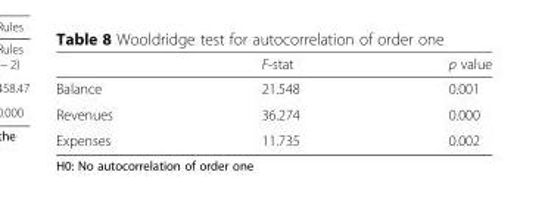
<table><thead><tr><td></td><td>F-stat</td><td>p value</td></tr></thead><tbody><tr><td>Balance</td><td>21.548</td><td>0.001</td></tr><tr><td>Revenues</td><td>36.274</td><td>0.000</td></tr><tr><td>Expenses</td><td>11.735</td><td>0.002</td></tr></tbody></table>